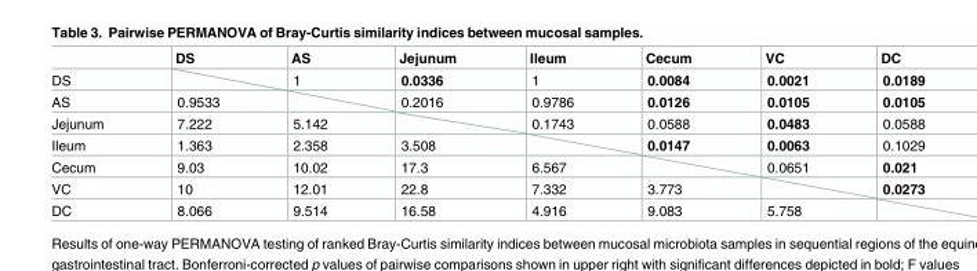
<table><thead><tr><td></td><td>DS</td><td>AS</td><td>Jejunum</td><td>Ileum</td><td>Cecum</td><td>VC</td><td>DC</td></tr></thead><tbody><tr><td>DS</td><td></td><td>1</td><td>0.0336</td><td>1</td><td>0.0084</td><td>0.0021</td><td>0.0189</td></tr><tr><td>AS</td><td>0.9533</td><td></td><td>0.2016</td><td>0.9786</td><td>0.0126</td><td>0.0105</td><td>0.0105</td></tr><tr><td>Jejunum</td><td>7.222</td><td>5.142</td><td></td><td>0.1743</td><td>0.0588</td><td>0.0483</td><td>0.0588</td></tr><tr><td>Ileum</td><td>1.363</td><td>2.358</td><td>3.508</td><td></td><td>0.0147</td><td>0.0063</td><td>0.1029</td></tr><tr><td>Cecum</td><td>9.03</td><td>10.02</td><td>17.3</td><td>6.567</td><td></td><td>0.0651</td><td>0.021</td></tr><tr><td>VC</td><td>10</td><td>12.01</td><td>22.8</td><td>7.332</td><td>3.773</td><td></td><td>0.0273</td></tr><tr><td>DC</td><td>8.066</td><td>9.514</td><td>16.58</td><td>4.916</td><td>9.083</td><td>5.758</td><td></td></tr></tbody></table>